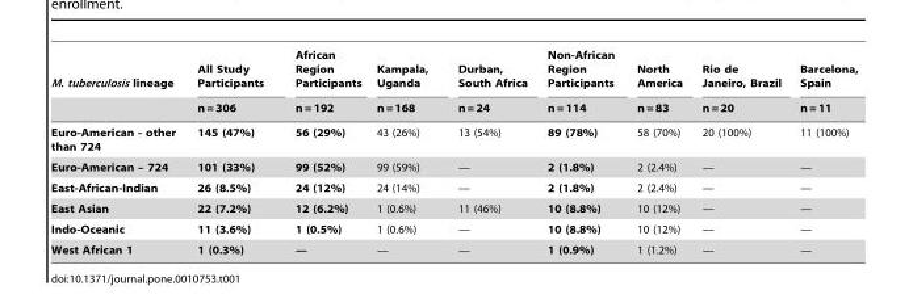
<table><thead><tr><td rowspan="2">M. tuberculosis lineage</td><td rowspan="2">All Study Participants n = 306</td><td rowspan="2">African Region Participants n = 192</td><td rowspan="2">Kampala, Uganda n = 168</td><td rowspan="2">Durban, South Africa n = 24</td><td rowspan="2">Non-African Region Participants n = 114</td><td rowspan="2">North America n = 83</td><td rowspan="2">Rio de Janeiro, Brazil n = 20</td><td rowspan="2">Barcelona, Spain n = 11</td></tr><tr></tr></thead><tbody><tr><td>Euro-American - other than 724</td><td>145 (47%)</td><td>56 (29%)</td><td>43 (26%)</td><td>13 (54%)</td><td>89 (78%)</td><td>58 (70%)</td><td>20 (100%)</td><td>11 (100%)</td></tr><tr><td>Euro-American – 724</td><td>101 (33%)</td><td>99 (52%)</td><td>99 (59%)</td><td>—</td><td>2 (1.8%)</td><td>2 (2.4%)</td><td>—</td><td>—</td></tr><tr><td>East-African-Indian</td><td>26 (8.5%)</td><td>24 (12%)</td><td>24 (14%)</td><td>—</td><td>2 (1.8%)</td><td>2 (2.4%)</td><td>—</td><td>—</td></tr><tr><td>East Asian</td><td>22 (7.2%)</td><td>12 (6.2%)</td><td>1 (0.6%)</td><td>11 (46%)</td><td>10 (8.8%)</td><td>10 (12%)</td><td>—</td><td>—</td></tr><tr><td>Indo-Oceanic</td><td>11 (3.6%)</td><td>1 (0.5%)</td><td>1 (0.6%)</td><td>—</td><td>10 (8.8%)</td><td>10 (12%)</td><td>—</td><td>—</td></tr><tr><td>West African 1</td><td>1 (0.3%)</td><td>—</td><td>—</td><td>—</td><td>1 (0.9%)</td><td>1 (1.2%)</td><td>—</td><td>—</td></tr></tbody></table>